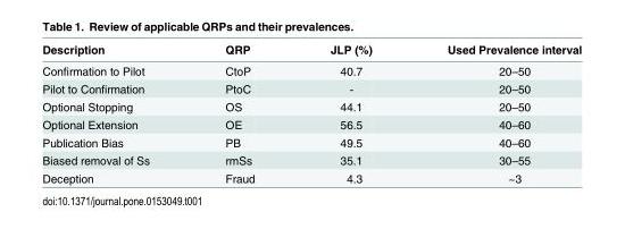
<table><thead><tr><td>Description</td><td>QRP</td><td>JLP (%)</td><td>Used Prevalence interval</td></tr></thead><tbody><tr><td>Confirmation to Pilot</td><td>CtoP</td><td>40.7</td><td>20–50</td></tr><tr><td>Pilot to Confirmation</td><td>PtoC</td><td>-</td><td>20–50</td></tr><tr><td>Optional Stopping</td><td>OS</td><td>44.1</td><td>20–50</td></tr><tr><td>Optional Extension</td><td>OE</td><td>56.5</td><td>40–60</td></tr><tr><td>Publication Bias</td><td>PB</td><td>49.5</td><td>40–60</td></tr><tr><td>Biased removal of Ss</td><td>rmSs</td><td>35.1</td><td>30–55</td></tr><tr><td>Deception</td><td>Fraud</td><td>4.3</td><td>~3</td></tr></tbody></table>